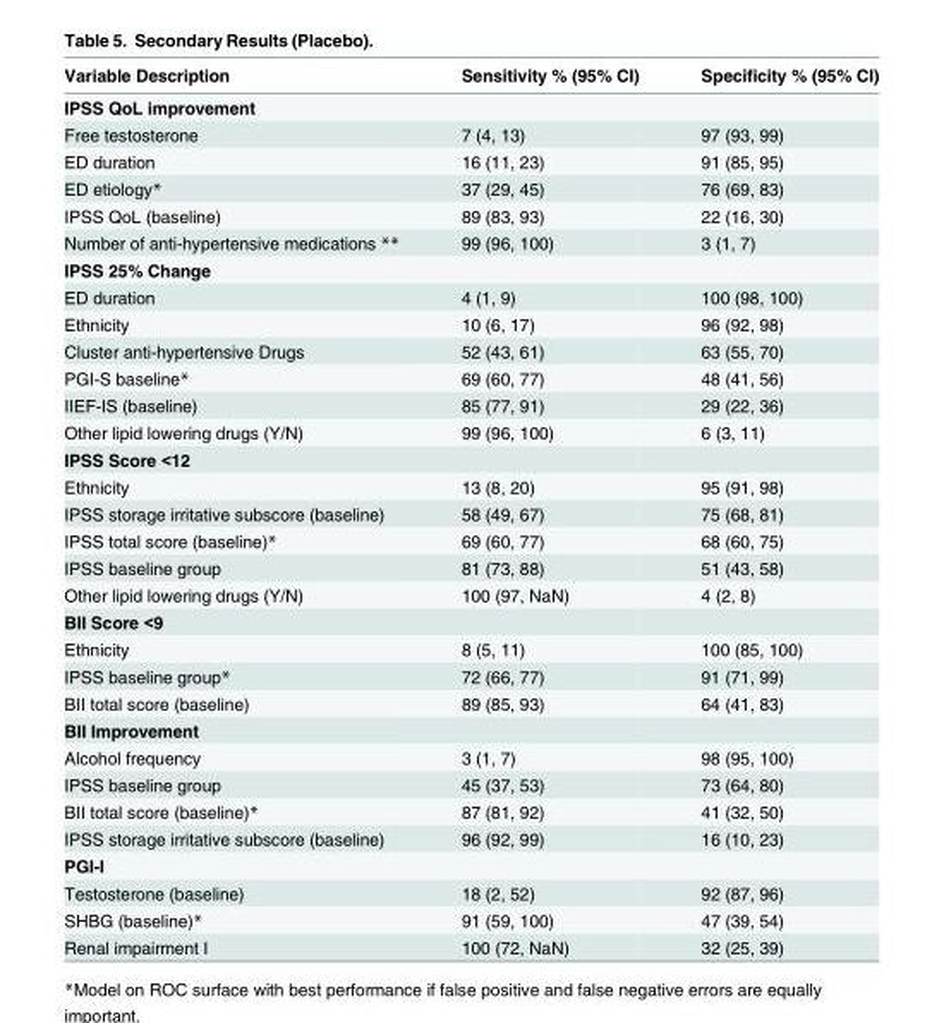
<table><thead><tr><td>Variable Description</td><td>Sensitivity % (95% CI)</td><td>Specificity % (95% CI)</td></tr></thead><tbody><tr><td colspan="3">IPSS QoL improvement</td></tr><tr><td>Free testosterone</td><td>7 (4, 13)</td><td>97 (93, 99)</td></tr><tr><td>ED duration</td><td>16 (11, 23)</td><td>91 (85, 95)</td></tr><tr><td>ED etiology*</td><td>37 (29, 45)</td><td>76 (69, 83)</td></tr><tr><td>IPSS QoL (baseline)</td><td>89 (83, 93)</td><td>22 (16, 30)</td></tr><tr><td>Number of anti-hypertensive medications **</td><td>99 (96, 100)</td><td>3 (1, 7)</td></tr><tr><td colspan="3">IPSS 25% Change</td></tr><tr><td>ED duration</td><td>4 (1, 9)</td><td>100 (98, 100)</td></tr><tr><td>Ethnicity</td><td>10 (6, 17)</td><td>96 (92, 98)</td></tr><tr><td>Cluster anti-hypertensive Drugs</td><td>52 (43, 61)</td><td>63 (55, 70)</td></tr><tr><td>PGI-S baseline*</td><td>69 (60, 77)</td><td>48 (41, 56)</td></tr><tr><td>IIEF-IS (baseline)</td><td>85 (77, 91)</td><td>29 (22, 36)</td></tr><tr><td>Other lipid lowering drugs (Y/N)</td><td>99 (96, 100)</td><td>6 (3, 11)</td></tr><tr><td colspan="3">IPSS Score &lt;12</td></tr><tr><td>Ethnicity</td><td>13 (8, 20)</td><td>95 (91, 98)</td></tr><tr><td>IPSS storage irritative subscore (baseline)</td><td>58 (49, 67)</td><td>75 (68, 81)</td></tr><tr><td>IPSS total score (baseline)*</td><td>69 (60, 77)</td><td>68 (60, 75)</td></tr><tr><td>IPSS baseline group</td><td>81 (73, 88)</td><td>51 (43, 58)</td></tr><tr><td>Other lipid lowering drugs (Y/N)</td><td>100 (97, NaN)</td><td>4 (2, 8)</td></tr><tr><td colspan="3">BII Score &lt;9</td></tr><tr><td>Ethnicity</td><td>8 (5, 11)</td><td>100 (85, 100)</td></tr><tr><td>IPSS baseline group*</td><td>72 (66, 77)</td><td>91 (71, 99)</td></tr><tr><td>BII total score (baseline)</td><td>89 (85, 93)</td><td>64 (41, 83)</td></tr><tr><td colspan="3">BII Improvement</td></tr><tr><td>Alcohol frequency</td><td>3 (1, 7)</td><td>98 (95, 100)</td></tr><tr><td>IPSS baseline group</td><td>45 (37, 53)</td><td>73 (64, 80)</td></tr><tr><td>BII total score (baseline)*</td><td>87 (81, 92)</td><td>41 (32, 50)</td></tr><tr><td>IPSS storage irritative subscore (baseline)</td><td>96 (92, 99)</td><td>16 (10, 23)</td></tr><tr><td colspan="3">PGI-I</td></tr><tr><td>Testosterone (baseline)</td><td>18 (2, 52)</td><td>92 (87, 96)</td></tr><tr><td>SHBG (baseline)*</td><td>91 (59, 100)</td><td>47 (39, 54)</td></tr><tr><td>Renal impairment I</td><td>100 (72, NaN)</td><td>32 (25, 39)</td></tr></tbody></table>